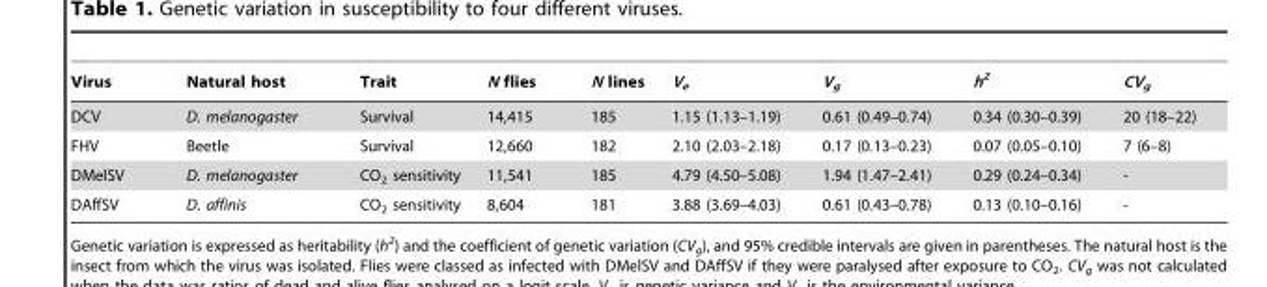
<table><thead><tr><td>Virus</td><td>Natural host</td><td>Trait</td><td>N flies</td><td>N lines</td><td>V<sub>e</sub></td><td>V<sub>g</sub></td><td>h<sup>2</sup></td><td>CV<sub>g</sub></td></tr></thead><tbody><tr><td>DCV</td><td>D. melanogaster</td><td>Survival</td><td>14,415</td><td>185</td><td>1.15 (1.13–1.19)</td><td>0.61 (0.49–0.74)</td><td>0.34 (0.30–0.39)</td><td>20 (18–22)</td></tr><tr><td>FHV</td><td>Beetle</td><td>Survival</td><td>12,660</td><td>182</td><td>2.10 (2.03–2.18)</td><td>0.17 (0.13–0.23)</td><td>0.07 (0.05–0.10)</td><td>7 (6–8)</td></tr><tr><td>DMelSV</td><td>D. melanogaster</td><td>CO<sub>2</sub> sensitivity</td><td>11,541</td><td>185</td><td>4.79 (4.50–5.08)</td><td>1.94 (1.47–2.41)</td><td>0.29 (0.24–0.34)</td><td>-</td></tr><tr><td>DAffSV</td><td>D. affinis</td><td>CO<sub>2</sub> sensitivity</td><td>8,604</td><td>181</td><td>3.88 (3.69–4.03)</td><td>0.61 (0.43–0.78)</td><td>0.13 (0.10–0.16)</td><td>-</td></tr></tbody></table>